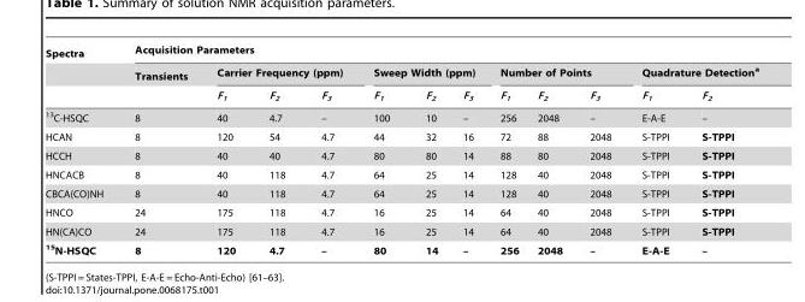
<table><thead><tr><td rowspan="3">Spectra</td><td colspan="12">Acquisition Parameters</td></tr><tr><td rowspan="2">Transients</td><td colspan="3">Carrier Frequency (ppm)</td><td colspan="3">Sweep Width (ppm)</td><td colspan="3">Number of Points</td><td colspan="2">Quadrature Detection<sup>a</sup></td></tr><tr><td>F<sub>1</sub></td><td>F<sub>2</sub></td><td>F<sub>3</sub></td><td>F<sub>1</sub></td><td>F<sub>2</sub></td><td>F<sub>3</sub></td><td>F<sub>1</sub></td><td>F<sub>2</sub></td><td>F<sub>3</sub></td><td>F<sub>1</sub></td><td>F<sub>2</sub></td></tr></thead><tbody><tr><td><sup>13</sup>C-HSQC</td><td>8</td><td>40</td><td>4.7</td><td>–</td><td>100</td><td>10</td><td>–</td><td>256</td><td>2048</td><td>–</td><td>E-A-E</td><td>–</td></tr><tr><td>HCAN</td><td>8</td><td>120</td><td>54</td><td>4.7</td><td>44</td><td>32</td><td>16</td><td>72</td><td>88</td><td>2048</td><td>S-TPPI</td><td>S-TPPI</td></tr><tr><td>HCCH</td><td>8</td><td>40</td><td>40</td><td>4.7</td><td>80</td><td>80</td><td>14</td><td>88</td><td>80</td><td>2048</td><td>S-TPPI</td><td>S-TPPI</td></tr><tr><td>HNCACB</td><td>8</td><td>40</td><td>118</td><td>4.7</td><td>64</td><td>25</td><td>14</td><td>128</td><td>40</td><td>2048</td><td>S-TPPI</td><td>S-TPPI</td></tr><tr><td>CBCA(CO)NH</td><td>8</td><td>40</td><td>118</td><td>4.7</td><td>64</td><td>25</td><td>14</td><td>128</td><td>40</td><td>2048</td><td>S-TPPI</td><td>S-TPPI</td></tr><tr><td>HNCO</td><td>24</td><td>175</td><td>118</td><td>4.7</td><td>16</td><td>25</td><td>14</td><td>64</td><td>40</td><td>2048</td><td>S-TPPI</td><td>S-TPPI</td></tr><tr><td>HN(CA)CO</td><td>24</td><td>175</td><td>118</td><td>4.7</td><td>16</td><td>25</td><td>14</td><td>64</td><td>40</td><td>2048</td><td>S-TPPI</td><td>S-TPPI</td></tr><tr><td><sup>15</sup>N-HSQC</td><td>8</td><td>120</td><td>4.7</td><td>–</td><td>80</td><td>14</td><td>–</td><td>256</td><td>2048</td><td>–</td><td>E-A-E</td><td>–</td></tr></tbody></table>